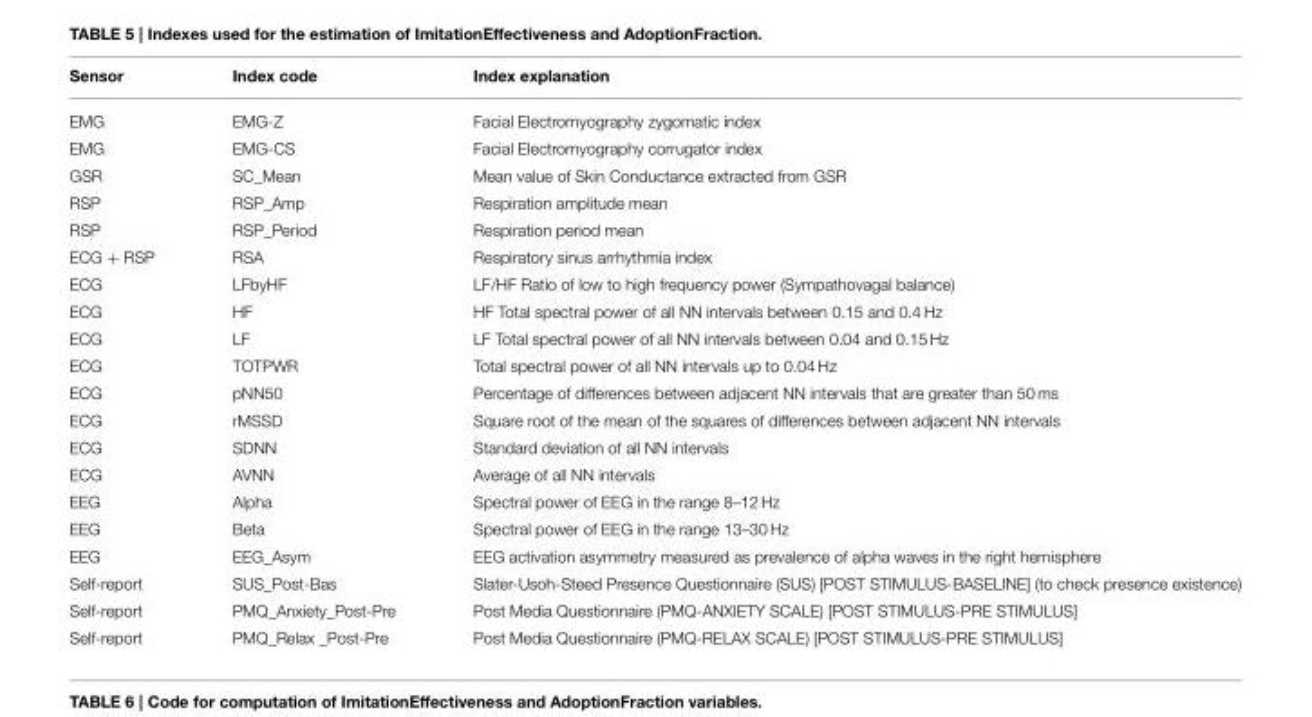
<table><thead><tr><td>Sensor</td><td>Index code</td><td>Index explanation</td></tr></thead><tbody><tr><td>EMG</td><td>EMG-Z</td><td>Facial Electromyography zygomatic index</td></tr><tr><td>EMG</td><td>EMG-CS</td><td>Facial Electromyography corrugator index</td></tr><tr><td>GSR</td><td>SC_Mean</td><td>Mean value of Skin Conductance extracted from GSR</td></tr><tr><td>RSP</td><td>RSP_Amp</td><td>Respiration amplitude mean</td></tr><tr><td>RSP</td><td>RSP_Period</td><td>Respiration period mean</td></tr><tr><td>ECG + RSP</td><td>RSA</td><td>Respiratory sinus arrhythmia index</td></tr><tr><td>ECG</td><td>LFbyHF</td><td>LF/HF Ratio of low to high frequency power (Sympathovagal balance)</td></tr><tr><td>ECG</td><td>HF</td><td>HF Total spectral power of all NN intervals between 0.15 and 0.4 Hz</td></tr><tr><td>ECG</td><td>LF</td><td>LF Total spectral power of all NN intervals between 0.04 and 0.15 Hz</td></tr><tr><td>ECG</td><td>TOTPWR</td><td>Total spectral power of all NN intervals up to 0.04 Hz</td></tr><tr><td>ECG</td><td>pNN50</td><td>Percentage of differences between adjacent NN intervals that are greater than 50 ms</td></tr><tr><td>ECG</td><td>rMSSD</td><td>Square root of the mean of the squares of differences between adjacent NN intervals</td></tr><tr><td>ECG</td><td>SDNN</td><td>Standard deviation of all NN intervals</td></tr><tr><td>ECG</td><td>AVNN</td><td>Average of all NN intervals</td></tr><tr><td>EEG</td><td>Alpha</td><td>Spectral power of EEG in the range 8–12 Hz</td></tr><tr><td>EEG</td><td>Beta</td><td>Spectral power of EEG in the range 13–30 Hz</td></tr><tr><td>EEG</td><td>EEG_Asym</td><td>EEG activation asymmetry measured as prevalence of alpha waves in the right hemisphere</td></tr><tr><td>Self-report</td><td>SUS_Post-Bas</td><td>Slater-Usoh-Steed Presence Questionnaire (SUS) [POST STIMULUS-BASELINE] (to check presence existence)</td></tr><tr><td>Self-report</td><td>PMQ_Anxiety_Post-Pre</td><td>Post Media Questionnaire (PMQ-ANXIETY SCALE) [POST STIMULUS-PRE STIMULUS]</td></tr><tr><td>Self-report</td><td>PMQ_Relax _Post-Pre</td><td>Post Media Questionnaire (PMQ-RELAX SCALE) [POST STIMULUS-PRE STIMULUS]</td></tr></tbody></table>